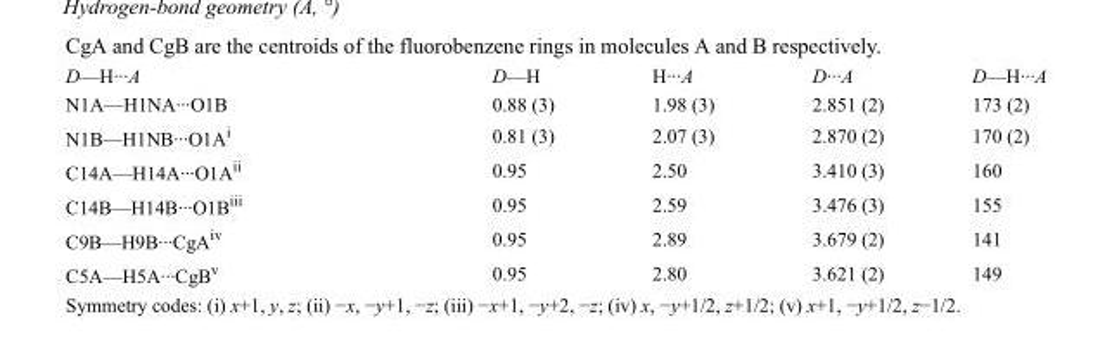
<table><tbody><tr><td>D—H···A</td><td>D—H</td><td>H···A</td><td>D···A</td><td>D—H···A</td></tr><tr><td>N1A—H1NA···O1B</td><td>0.88 (3)</td><td>1.98 (3)</td><td>2.851 (2)</td><td>173 (2)</td></tr><tr><td>N1B—H1NB···O1A<sup>i</sup></td><td>0.81 (3)</td><td>2.07 (3)</td><td>2.870 (2)</td><td>170 (2)</td></tr><tr><td>C14A—H14A···O1A<sup>ii</sup></td><td>0.95</td><td>2.50</td><td>3.410 (3)</td><td>160</td></tr><tr><td>C14B—H14B···O1B<sup>iii</sup></td><td>0.95</td><td>2.59</td><td>3.476 (3)</td><td>155</td></tr><tr><td>C9B—H9B···CgA<sup>iv</sup></td><td>0.95</td><td>2.89</td><td>3.679 (2)</td><td>141</td></tr><tr><td>C5A—H5A···CgB<sup>v</sup></td><td>0.95</td><td>2.80</td><td>3.621 (2)</td><td>149</td></tr></tbody></table>